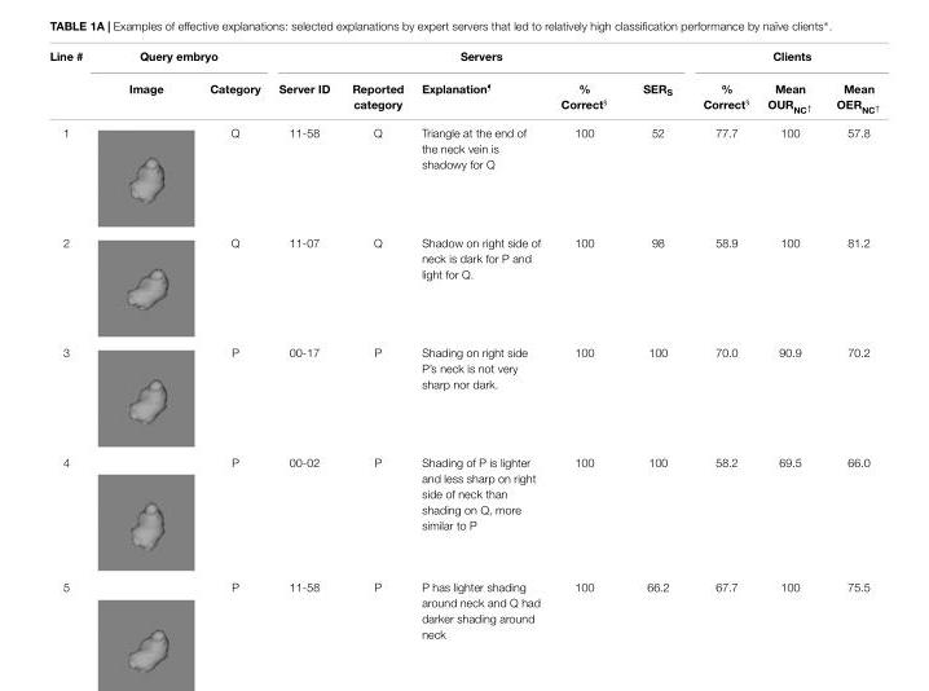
<table><thead><tr><td rowspan="2">Line #</td><td colspan="2">Query embryo</td><td colspan="5">Servers</td><td colspan="2">Clients</td><td rowspan="2">Mean OER<sub>NC</sub><sup><sub>†</sub></sup></td></tr><tr><td>Image</td><td>Category</td><td>Server ID</td><td>Reported category</td><td>Explanation<sup>¶</sup></td><td>% Correct<sup>§</sup></td><td>SER<sub>S</sub></td><td>% Correct<sup>§</sup></td><td>Mean OUR<sub>NC</sub><sup><sub>†</sub></sup></td></tr></thead><tbody><tr><td>1</td><td></td><td>Q</td><td>11-58</td><td>Q</td><td>Triangle at the end of the neck vein is shadowy for Q</td><td>100</td><td>52</td><td>77.7</td><td>100</td><td>57.8</td></tr><tr><td>2</td><td></td><td>Q</td><td>11-07</td><td>Q</td><td>Shadow on right side of neck is dark for P and light for Q.</td><td>100</td><td>98</td><td>58.9</td><td>100</td><td>81.2</td></tr><tr><td>3</td><td></td><td>P</td><td>00-17</td><td>P</td><td>Shading on right side P’s neck is not very sharp nor dark.</td><td>100</td><td>100</td><td>70.0</td><td>90.9</td><td>70.2</td></tr><tr><td>4</td><td></td><td>P</td><td>00-02</td><td>P</td><td>Shading of P is lighter and less sharp on right side of neck than shading on Q, more similar to P</td><td>100</td><td>100</td><td>58.2</td><td>69.5</td><td>66.0</td></tr><tr><td>5</td><td></td><td>P</td><td>11-58</td><td>P</td><td>P has lighter shading around neck and Q had darker shading around neck</td><td>100</td><td>66.2</td><td>67.7</td><td>100</td><td>75.5</td></tr></tbody></table>